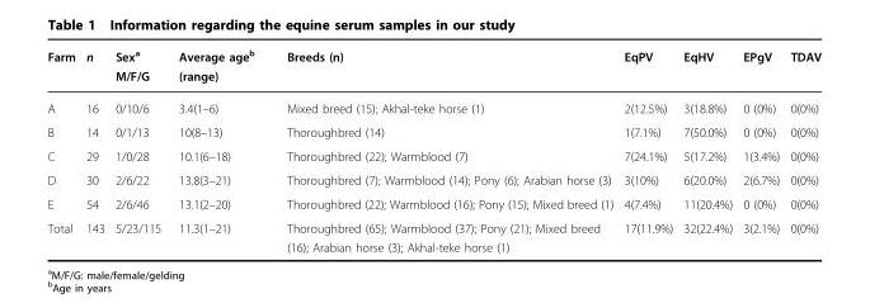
<table><thead><tr><td>Farm</td><td>n</td><td>Sex<sup>a</sup> M/F/G</td><td>Average age<sup>b</sup> (range)</td><td>Breeds (n)</td><td>EqPV</td><td>EqHV</td><td>EPgV</td><td>TDAV</td></tr></thead><tbody><tr><td>A</td><td>16</td><td>0/10/6</td><td>3.4(1–6)</td><td>Mixed breed (15); Akhal-teke horse (1)</td><td>2(12.5%)</td><td>3(18.8%)</td><td>0 (0%)</td><td>0(0%)</td></tr><tr><td>B</td><td>14</td><td>0/1/13</td><td>10(8–13)</td><td>Thoroughbred (14)</td><td>1(7.1%)</td><td>7(50.0%)</td><td>0 (0%)</td><td>0(0%)</td></tr><tr><td>C</td><td>29</td><td>1/0/28</td><td>10.1(6–18)</td><td>Thoroughbred (22); Warmblood (7)</td><td>7(24.1%)</td><td>5(17.2%)</td><td>1(3.4%)</td><td>0(0%)</td></tr><tr><td>D</td><td>30</td><td>2/6/22</td><td>13.8(3–21)</td><td>Thoroughbred (7); Warmblood (14); Pony (6); Arabian horse (3)</td><td>3(10%)</td><td>6(20.0%)</td><td>2(6.7%)</td><td>0(0%)</td></tr><tr><td>E</td><td>54</td><td>2/6/46</td><td>13.1(2–20)</td><td>Thoroughbred (22); Warmblood (16); Pony (15); Mixed breed (1)</td><td>4(7.4%)</td><td>11(20.4%)</td><td>0 (0%)</td><td>0(0%)</td></tr><tr><td>Total</td><td>143</td><td>5/23/115</td><td>11.3(1–21)</td><td>Thoroughbred (65); Warmblood (37); Pony (21); Mixed breed (16); Arabian horse (3); Akhal-teke horse (1)</td><td>17(11.9%)</td><td>32(22.4%)</td><td>3(2.1%)</td><td>0(0%)</td></tr></tbody></table>